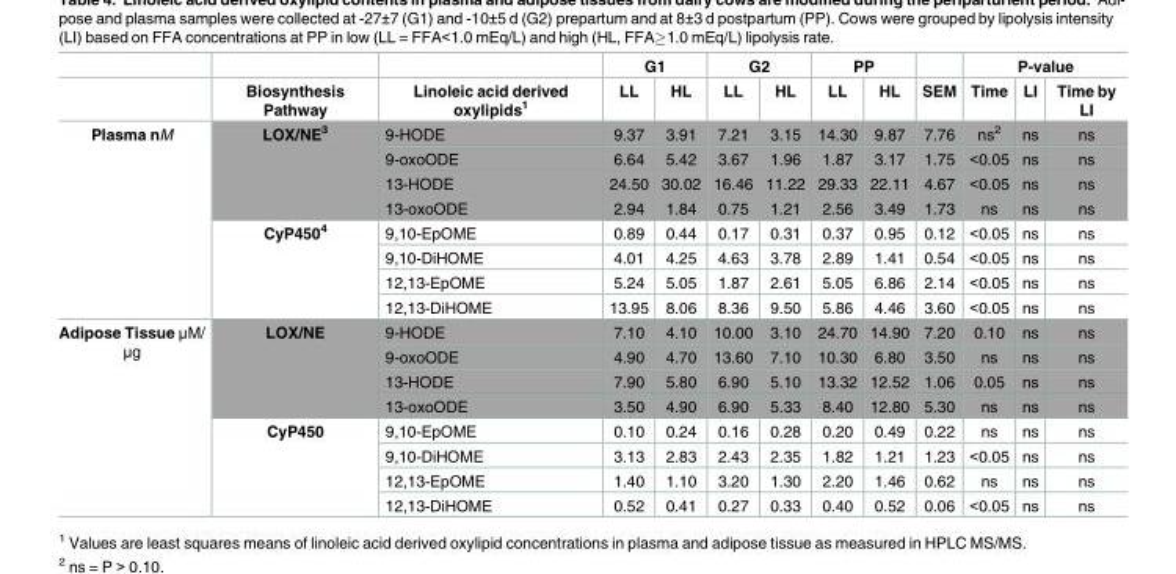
<table><thead><tr><td rowspan="2"></td><td rowspan="2">Biosynthesis Pathway</td><td rowspan="2">Linoleic acid derived oxylipids<sup>1</sup></td><td colspan="2">G1</td><td colspan="2">G2</td><td colspan="2">PP</td><td rowspan="2">SEM</td><td colspan="3">P-value</td></tr><tr><td>LL</td><td>HL</td><td>LL</td><td>HL</td><td>LL</td><td>HL</td><td>Time</td><td>LI</td><td>Time by LI</td></tr></thead><tbody><tr><td rowspan="8">Plasma nM</td><td rowspan="4">LOX/NE<sup>3</sup></td><td>9-HODE</td><td>9.37</td><td>3.91</td><td>7.21</td><td>3.15</td><td>14.30</td><td>9.87</td><td>7.76</td><td>ns<sup>2</sup></td><td>ns</td><td>ns</td></tr><tr><td>9-oxoODE</td><td>6.64</td><td>5.42</td><td>3.67</td><td>1.96</td><td>1.87</td><td>3.17</td><td>1.75</td><td>&lt;0.05</td><td>ns</td><td>ns</td></tr><tr><td>13-HODE</td><td>24.50</td><td>30.02</td><td>16.46</td><td>11.22</td><td>29.33</td><td>22.11</td><td>4.67</td><td>&lt;0.05</td><td>ns</td><td>ns</td></tr><tr><td>13-oxoODE</td><td>2.94</td><td>1.84</td><td>0.75</td><td>1.21</td><td>2.56</td><td>3.49</td><td>1.73</td><td>ns</td><td>ns</td><td>ns</td></tr><tr><td rowspan="4">CyP450<sup>4</sup></td><td>9,10-EpOME</td><td>0.89</td><td>0.44</td><td>0.17</td><td>0.31</td><td>0.37</td><td>0.95</td><td>0.12</td><td>&lt;0.05</td><td>ns</td><td>ns</td></tr><tr><td>9,10-DiHOME</td><td>4.01</td><td>4.25</td><td>4.63</td><td>3.78</td><td>2.89</td><td>1.41</td><td>0.54</td><td>&lt;0.05</td><td>ns</td><td>ns</td></tr><tr><td>12,13-EpOME</td><td>5.24</td><td>5.05</td><td>1.87</td><td>2.61</td><td>5.05</td><td>6.86</td><td>2.14</td><td>&lt;0.05</td><td>ns</td><td>ns</td></tr><tr><td>12,13-DiHOME</td><td>13.95</td><td>8.06</td><td>8.36</td><td>9.50</td><td>5.86</td><td>4.46</td><td>3.60</td><td>&lt;0.05</td><td>ns</td><td>ns</td></tr><tr><td rowspan="8">Adipose Tissue μM/ μg</td><td rowspan="4">LOX/NE</td><td>9-HODE</td><td>7.10</td><td>4.10</td><td>10.00</td><td>3.10</td><td>24.70</td><td>14.90</td><td>7.20</td><td>0.10</td><td>ns</td><td>ns</td></tr><tr><td>9-oxoODE</td><td>4.90</td><td>4.70</td><td>13.60</td><td>7.10</td><td>10.30</td><td>6.80</td><td>3.50</td><td>ns</td><td>ns</td><td>ns</td></tr><tr><td>13-HODE</td><td>7.90</td><td>5.80</td><td>6.90</td><td>5.10</td><td>13.32</td><td>12.52</td><td>1.06</td><td>0.05</td><td>ns</td><td>ns</td></tr><tr><td>13-oxoODE</td><td>3.50</td><td>4.90</td><td>6.90</td><td>5.33</td><td>8.40</td><td>12.80</td><td>5.30</td><td>ns</td><td>ns</td><td>ns</td></tr><tr><td rowspan="4">CyP450</td><td>9,10-EpOME</td><td>0.10</td><td>0.24</td><td>0.16</td><td>0.28</td><td>0.20</td><td>0.49</td><td>0.22</td><td>ns</td><td>ns</td><td>ns</td></tr><tr><td>9,10-DiHOME</td><td>3.13</td><td>2.83</td><td>2.43</td><td>2.35</td><td>1.82</td><td>1.21</td><td>1.23</td><td>&lt;0.05</td><td>ns</td><td>ns</td></tr><tr><td>12,13-EpOME</td><td>1.40</td><td>1.10</td><td>3.20</td><td>1.30</td><td>2.20</td><td>1.46</td><td>0.62</td><td>ns</td><td>ns</td><td>ns</td></tr><tr><td>12,13-DiHOME</td><td>0.52</td><td>0.41</td><td>0.27</td><td>0.33</td><td>0.40</td><td>0.52</td><td>0.06</td><td>&lt;0.05</td><td>ns</td><td>ns</td></tr></tbody></table>